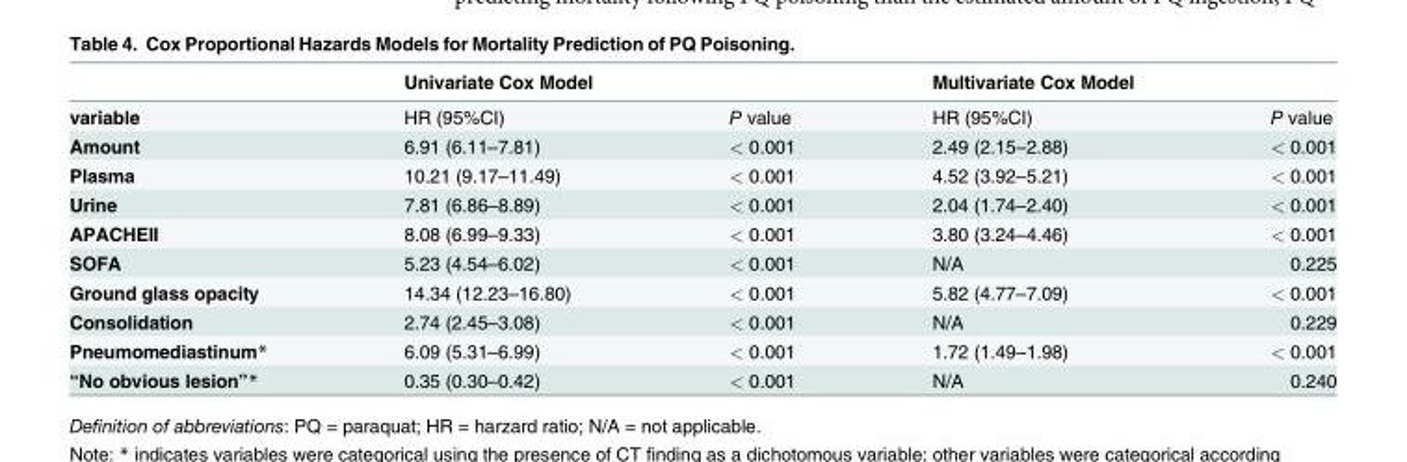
<table><thead><tr><td></td><td>Univariate Cox Model</td><td></td><td>Multivariate Cox Model</td><td></td></tr></thead><tbody><tr><td>variable</td><td>HR (95%CI)</td><td>P value</td><td>HR (95%CI)</td><td>P value</td></tr><tr><td>Amount</td><td>6.91 (6.11–7.81)</td><td>&lt; 0.001</td><td>2.49 (2.15–2.88)</td><td>&lt; 0.001</td></tr><tr><td>Plasma</td><td>10.21 (9.17–11.49)</td><td>&lt; 0.001</td><td>4.52 (3.92–5.21)</td><td>&lt; 0.001</td></tr><tr><td>Urine</td><td>7.81 (6.86–8.89)</td><td>&lt; 0.001</td><td>2.04 (1.74–2.40)</td><td>&lt; 0.001</td></tr><tr><td>APACHEII</td><td>8.08 (6.99–9.33)</td><td>&lt; 0.001</td><td>3.80 (3.24–4.46)</td><td>&lt; 0.001</td></tr><tr><td>SOFA</td><td>5.23 (4.54–6.02)</td><td>&lt; 0.001</td><td>N/A</td><td>0.225</td></tr><tr><td>Ground glass opacity</td><td>14.34 (12.23–16.80)</td><td>&lt; 0.001</td><td>5.82 (4.77–7.09)</td><td>&lt; 0.001</td></tr><tr><td>Consolidation</td><td>2.74 (2.45–3.08)</td><td>&lt; 0.001</td><td>N/A</td><td>0.229</td></tr><tr><td>Pneumomediastinum*</td><td>6.09 (5.31–6.99)</td><td>&lt; 0.001</td><td>1.72 (1.49–1.98)</td><td>&lt; 0.001</td></tr><tr><td>“No obvious lesion”*</td><td>0.35 (0.30–0.42)</td><td>&lt; 0.001</td><td>N/A</td><td>0.240</td></tr></tbody></table>